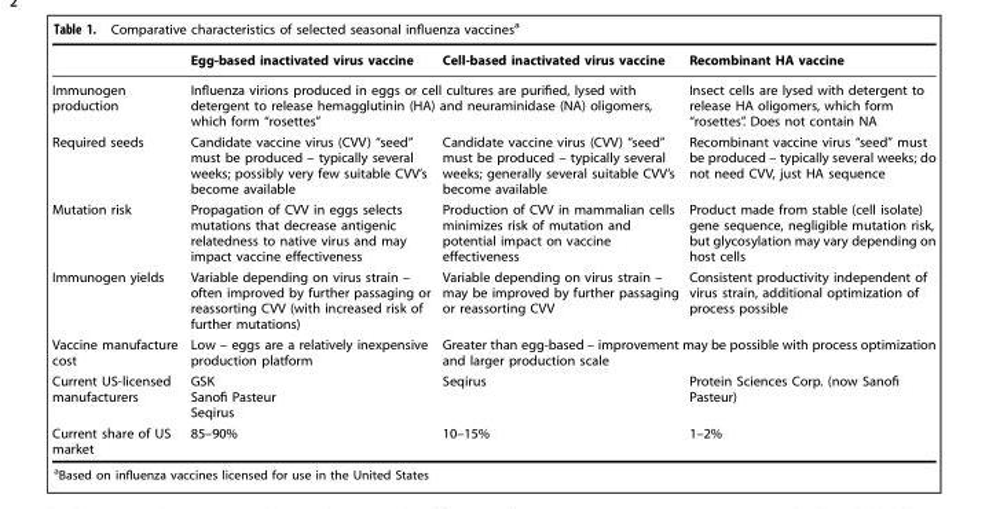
<table><thead><tr><td></td><td>Egg-based inactivated virus vaccine</td><td>Cell-based inactivated virus vaccine</td><td>Recombinant HA vaccine</td></tr></thead><tbody><tr><td>Immunogen production</td><td colspan="2">Influenza virions produced in eggs or cell cultures are purified, lysed with detergent to release hemagglutinin (HA) and neuraminidase (NA) oligomers, which form “rosettes”</td><td>Insect cells are lysed with detergent to release HA oligomers, which form “rosettes”. Does not contain NA</td></tr><tr><td>Required seeds</td><td>Candidate vaccine virus (CVV) “seed” must be produced – typically several weeks; possibly very few suitable CVV’s become available</td><td>Candidate vaccine virus (CVV) “seed” must be produced – typically several weeks; generally several suitable CVV’s become available</td><td>Recombinant vaccine virus “seed” must be produced – typically several weeks; do not need CVV, just HA sequence</td></tr><tr><td>Mutation risk</td><td>Propagation of CVV in eggs selects mutations that decrease antigenic relatedness to native virus and may impact vaccine effectiveness</td><td>Production of CVV in mammalian cells minimizes risk of mutation and potential impact on vaccine effectiveness</td><td>Product made from stable (cell isolate) gene sequence, negligible mutation risk, but glycosylation may vary depending on host cells</td></tr><tr><td>Immunogen yields</td><td>Variable depending on virus strain – often improved by further passaging or reassorting CVV (with increased risk of further mutations)</td><td>Variable depending on virus strain – may be improved by further passaging or reassorting CVV</td><td>Consistent productivity independent of virus strain, additional optimization of process possible</td></tr><tr><td>Vaccine manufacture cost</td><td>Low – eggs are a relatively inexpensive production platform</td><td colspan="2">Greater than egg-based – improvement may be possible with process optimization and larger production scale</td></tr><tr><td>Current US-licensed manufacturers</td><td>GSK Sanofi Pasteur Seqirus</td><td>Seqirus</td><td>Protein Sciences Corp. (now Sanofi Pasteur)</td></tr><tr><td>Current share of US market</td><td>85–90%</td><td>10–15%</td><td>1–2%</td></tr></tbody></table>